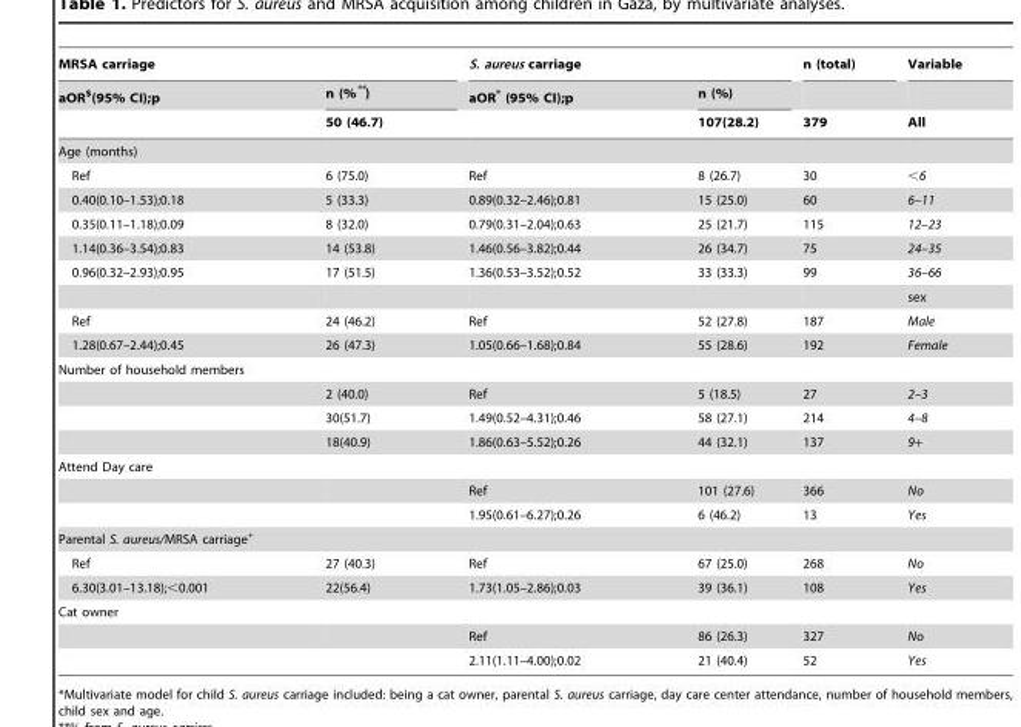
<table><thead><tr><td colspan="2">MRSA carriage</td><td colspan="2">S. aureus carriage</td><td rowspan="3">n (total) 379</td><td rowspan="3">Variable All</td></tr><tr><td rowspan="2">aOR$(95% CI);p</td><td rowspan="2">n (%**) 50 (46.7)</td><td rowspan="2">aOR* (95% CI);p</td><td rowspan="2">n (%) 107(28.2)</td></tr><tr></tr></thead><tbody><tr><td colspan="6">Age (months)</td></tr><tr><td>Ref</td><td>6 (75.0)</td><td>Ref</td><td>8 (26.7)</td><td>30</td><td>&lt;6</td></tr><tr><td>0.40(0.10–1.53);0.18</td><td>5 (33.3)</td><td>0.89(0.32–2.46);0.81</td><td>15 (25.0)</td><td>60</td><td>6–11</td></tr><tr><td>0.35(0.11–1.18);0.09</td><td>8 (32.0)</td><td>0.79(0.31–2.04);0.63</td><td>25 (21.7)</td><td>115</td><td>12–23</td></tr><tr><td>1.14(0.36–3.54);0.83</td><td>14 (53.8)</td><td>1.46(0.56–3.82);0.44</td><td>26 (34.7)</td><td>75</td><td>24–35</td></tr><tr><td rowspan="2">0.96(0.32–2.93);0.95</td><td>17 (51.5)</td><td>1.36(0.53–3.52);0.52</td><td>33 (33.3)</td><td>99</td><td>36–66</td></tr><tr><td></td><td></td><td></td><td></td><td>sex</td></tr><tr><td>Ref</td><td>24 (46.2)</td><td>Ref</td><td>52 (27.8)</td><td>187</td><td>Male</td></tr><tr><td>1.28(0.67–2.44);0.45</td><td>26 (47.3)</td><td>1.05(0.66–1.68);0.84</td><td>55 (28.6)</td><td>192</td><td>Female</td></tr><tr><td colspan="6">Number of household members</td></tr><tr><td></td><td>2 (40.0)</td><td>Ref</td><td>5 (18.5)</td><td>27</td><td>2–3</td></tr><tr><td></td><td>30(51.7)</td><td>1.49(0.52–4.31);0.46</td><td>58 (27.1)</td><td>214</td><td>4–8</td></tr><tr><td></td><td>18(40.9)</td><td>1.86(0.63–5.52);0.26</td><td>44 (32.1)</td><td>137</td><td>9+</td></tr><tr><td colspan="6">Attend Day care</td></tr><tr><td></td><td></td><td>Ref</td><td>101 (27.6)</td><td>366</td><td>No</td></tr><tr><td></td><td></td><td>1.95(0.61–6.27);0.26</td><td>6 (46.2)</td><td>13</td><td>Yes</td></tr><tr><td colspan="6">Parental S. aureus/MRSA carriage+</td></tr><tr><td>Ref</td><td>27 (40.3)</td><td>Ref</td><td>67 (25.0)</td><td>268</td><td>No</td></tr><tr><td>6.30(3.01–13.18);&lt;0.001</td><td>22(56.4)</td><td>1.73(1.05–2.86);0.03</td><td>39 (36.1)</td><td>108</td><td>Yes</td></tr><tr><td colspan="6">Cat owner</td></tr><tr><td></td><td></td><td>Ref</td><td>86 (26.3)</td><td>327</td><td>No</td></tr><tr><td></td><td></td><td>2.11(1.11–4.00);0.02</td><td>21 (40.4)</td><td>52</td><td>Yes</td></tr></tbody></table>